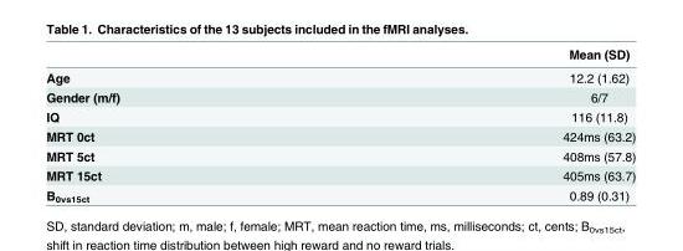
<table><thead><tr><td></td><td>Mean (SD)</td></tr></thead><tbody><tr><td>Age</td><td>12.2 (1.62)</td></tr><tr><td>Gender (m/f)</td><td>6/7</td></tr><tr><td>IQ</td><td>116 (11.8)</td></tr><tr><td>MRT 0ct</td><td>424ms (63.2)</td></tr><tr><td>MRT 5ct</td><td>408ms (57.8)</td></tr><tr><td>MRT 15ct</td><td>405ms (63.7)</td></tr><tr><td>B<sub>0vs15ct</sub></td><td>0.89 (0.31)</td></tr></tbody></table>